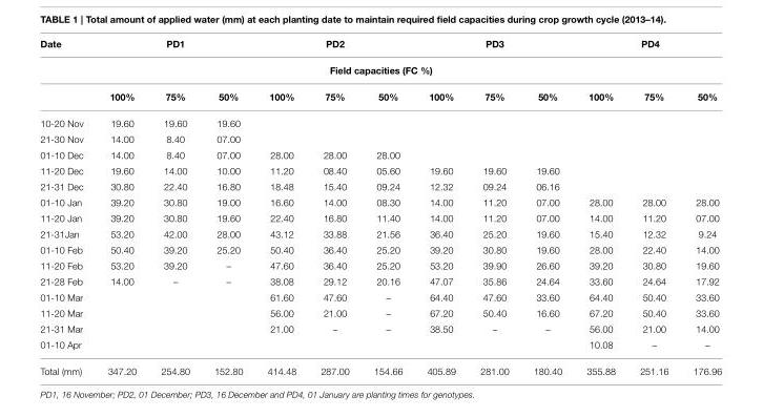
<table><thead><tr><td>Date</td><td colspan="3">PD1</td><td colspan="3">PD2</td><td colspan="3">PD3</td><td colspan="3">PD4</td></tr><tr><td colspan="13">Field capacities (FC %)</td></tr><tr><td></td><td>100%</td><td>75%</td><td>50%</td><td>100%</td><td>75%</td><td>50%</td><td>100%</td><td>75%</td><td>50%</td><td>100%</td><td>75%</td><td>50%</td></tr></thead><tbody><tr><td>10-20 Nov</td><td>19.60</td><td>19.60</td><td>19.60</td><td></td><td></td><td></td><td></td><td></td><td></td><td></td><td></td><td></td></tr><tr><td>21-30 Nov</td><td>14.00</td><td>8.40</td><td>07.00</td><td></td><td></td><td></td><td></td><td></td><td></td><td></td><td></td><td></td></tr><tr><td>01-10 Dec</td><td>14.00</td><td>8.40</td><td>07.00</td><td>28.00</td><td>28.00</td><td>28.00</td><td></td><td></td><td></td><td></td><td></td><td></td></tr><tr><td>11-20 Dec</td><td>19.60</td><td>14.00</td><td>10.00</td><td>11.20</td><td>08.40</td><td>05.60</td><td>19.60</td><td>19.60</td><td>19.60</td><td></td><td></td><td></td></tr><tr><td>21-31 Dec</td><td>30.80</td><td>22.40</td><td>16.80</td><td>18.48</td><td>15.40</td><td>09.24</td><td>12.32</td><td>09.24</td><td>06.16</td><td></td><td></td><td></td></tr><tr><td>01-10 Jan</td><td>39.20</td><td>30.80</td><td>19.00</td><td>16.60</td><td>14.00</td><td>08.30</td><td>14.00</td><td>11.20</td><td>07.00</td><td>28.00</td><td>28.00</td><td>28.00</td></tr><tr><td>11-20 Jan</td><td>39.20</td><td>30.80</td><td>19.60</td><td>22.40</td><td>16.80</td><td>11.40</td><td>14.00</td><td>11.20</td><td>07.00</td><td>14.00</td><td>11.20</td><td>07.00</td></tr><tr><td>21-31Jan</td><td>53.20</td><td>42.00</td><td>28.00</td><td>43.12</td><td>33.88</td><td>21.56</td><td>36.40</td><td>25.20</td><td>19.60</td><td>15.40</td><td>12.32</td><td>9.24</td></tr><tr><td>01-10 Feb</td><td>50.40</td><td>39.20</td><td>25.20</td><td>50.40</td><td>36.40</td><td>25.20</td><td>39.20</td><td>30.80</td><td>19.60</td><td>28.00</td><td>22.40</td><td>14.00</td></tr><tr><td>11-20 Feb</td><td>53.20</td><td>39.20</td><td>–</td><td>47.60</td><td>36.40</td><td>25.20</td><td>53.20</td><td>39.90</td><td>26.60</td><td>39.20</td><td>30.80</td><td>19.60</td></tr><tr><td>21-28 Feb</td><td>14.00</td><td>–</td><td>–</td><td>38.08</td><td>29.12</td><td>20.16</td><td>47.07</td><td>35.86</td><td>24.64</td><td>33.60</td><td>24.64</td><td>17.92</td></tr><tr><td>01-10 Mar</td><td></td><td></td><td></td><td>61.60</td><td>47.60</td><td>–</td><td>64.40</td><td>47.60</td><td>33.60</td><td>64.40</td><td>50.40</td><td>33.60</td></tr><tr><td>11-20 Mar</td><td></td><td></td><td></td><td>56.00</td><td>21.00</td><td>–</td><td>67.20</td><td>50.40</td><td>16.60</td><td>67.20</td><td>50.40</td><td>33.60</td></tr><tr><td>21-31 Mar</td><td></td><td></td><td></td><td>21.00</td><td>–</td><td>–</td><td>38.50</td><td>–</td><td>–</td><td>56.00</td><td>21.00</td><td>14.00</td></tr><tr><td>01-10 Apr</td><td></td><td></td><td></td><td></td><td></td><td></td><td></td><td></td><td></td><td>10.08</td><td>–</td><td>–</td></tr><tr><td>Total (mm)</td><td>347.20</td><td>254.80</td><td>152.80</td><td>414.48</td><td>287.00</td><td>154.66</td><td>405.89</td><td>281.00</td><td>180.40</td><td>355.88</td><td>251.16</td><td>176.96</td></tr></tbody></table>